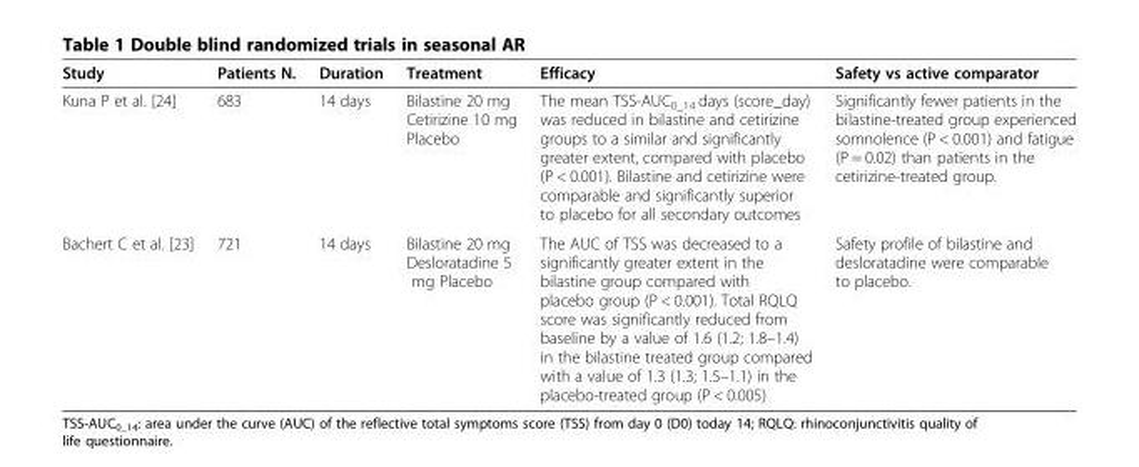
<table><thead><tr><td>Study</td><td>Patients N.</td><td>Duration</td><td>Treatment</td><td>Efficacy</td><td>Safety vs active comparator</td></tr></thead><tbody><tr><td>Kuna P et al. [24]</td><td>683</td><td>14 days</td><td>Bilastine 20 mg Cetirizine 10 mg Placebo</td><td>The mean TSS-AUC<sub>0_14</sub> days (score_day) was reduced in bilastine and cetirizine groups to a similar and significantly greater extent, compared with placebo (P &lt; 0.001). Bilastine and cetirizine were comparable and significantly superior to placebo for all secondary outcomes</td><td>Significantly fewer patients in the bilastine-treated group experienced somnolence (P &lt; 0.001) and fatigue (P = 0.02) than patients in the cetirizine-treated group.</td></tr><tr><td>Bachert C et al. [23]</td><td>721</td><td>14 days</td><td>Bilastine 20 mg Desloratadine 5 mg Placebo</td><td>The AUC of TSS was decreased to a significantly greater extent in the bilastine group compared with placebo group (P &lt; 0.001). Total RQLQ score was significantly reduced from baseline by a value of 1.6 (1.2; 1.8–1.4) in the bilastine treated group compared with a value of 1.3 (1.3; 1.5–1.1) in the placebo-treated group (P &lt; 0.005)</td><td>Safety profile of bilastine and desloratadine were comparable to placebo.</td></tr></tbody></table>